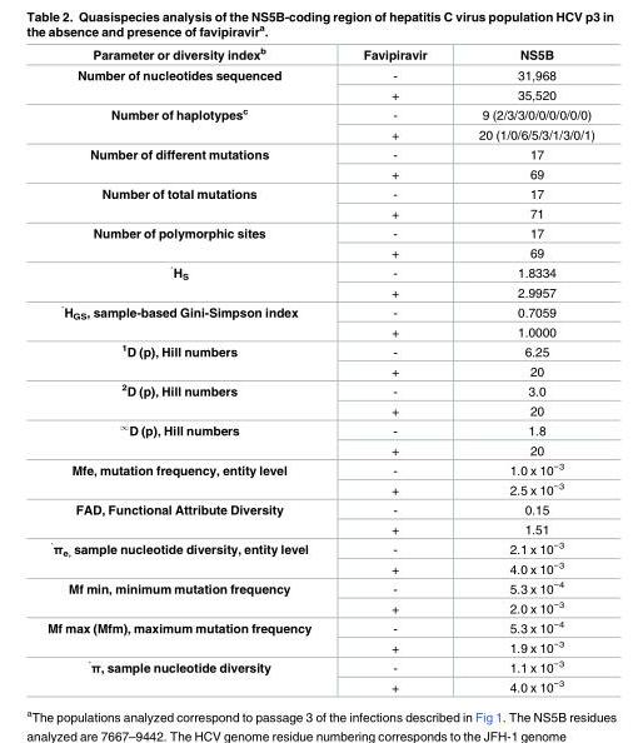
<table><thead><tr><td>Parameter or diversity index<sup>b</sup></td><td>Favipiravir</td><td>NS5B</td></tr></thead><tbody><tr><td rowspan="2">Number of nucleotides sequenced</td><td>-</td><td>31,968</td></tr><tr><td>+</td><td>35,520</td></tr><tr><td rowspan="2">Number of haplotypes<sup>c</sup></td><td>-</td><td>9 (2/3/3/0/0/0/0/0/0)</td></tr><tr><td>+</td><td>20 (1/0/6/5/3/1/3/0/1)</td></tr><tr><td rowspan="2">Number of different mutations</td><td>-</td><td>17</td></tr><tr><td>+</td><td>69</td></tr><tr><td rowspan="2">Number of total mutations</td><td>-</td><td>17</td></tr><tr><td>+</td><td>71</td></tr><tr><td rowspan="2">Number of polymorphic sites</td><td>-</td><td>17</td></tr><tr><td>+</td><td>69</td></tr><tr><td rowspan="2"><sup>˄</sup>H<sub>S</sub></td><td>-</td><td>1.8334</td></tr><tr><td>+</td><td>2.9957</td></tr><tr><td rowspan="2"><sup>˄</sup>H<sub>GS</sub>, sample-based Gini-Simpson index</td><td>-</td><td>0.7059</td></tr><tr><td>+</td><td>1.0000</td></tr><tr><td rowspan="2"><sup>1</sup>D (p), Hill numbers</td><td>-</td><td>6.25</td></tr><tr><td>+</td><td>20</td></tr><tr><td rowspan="2"><sup>2</sup>D (p), Hill numbers</td><td>-</td><td>3.0</td></tr><tr><td>+</td><td>20</td></tr><tr><td rowspan="2"><sup>∞</sup>D (p), Hill numbers</td><td>-</td><td>1.8</td></tr><tr><td>+</td><td>20</td></tr><tr><td rowspan="2">Mfe, mutation frequency, entity level</td><td>-</td><td>1.0 x 10<sup>−3</sup></td></tr><tr><td>+</td><td>2.5 x 10<sup>−3</sup></td></tr><tr><td rowspan="2">FAD, Functional Attribute Diversity</td><td>-</td><td>0.15</td></tr><tr><td>+</td><td>1.51</td></tr><tr><td rowspan="2"><sup>˄</sup>π<sub>e,</sub> sample nucleotide diversity, entity level</td><td>-</td><td>2.1 x 10<sup>−3</sup></td></tr><tr><td>+</td><td>4.0 x 10<sup>−3</sup></td></tr><tr><td rowspan="2">Mf min, minimum mutation frequency</td><td>-</td><td>5.3 x 10<sup>−4</sup></td></tr><tr><td>+</td><td>2.0 x 10<sup>−3</sup></td></tr><tr><td rowspan="2">Mf max (Mfm), maximum mutation frequency</td><td>-</td><td>5.3 x 10<sup>−4</sup></td></tr><tr><td>+</td><td>1.9 x 10<sup>−3</sup></td></tr><tr><td rowspan="2"><sup>˄</sup>π, sample nucleotide diversity</td><td>-</td><td>1.1 x 10<sup>−3</sup></td></tr><tr><td>+</td><td>4.0 x 10<sup>−3</sup></td></tr></tbody></table>